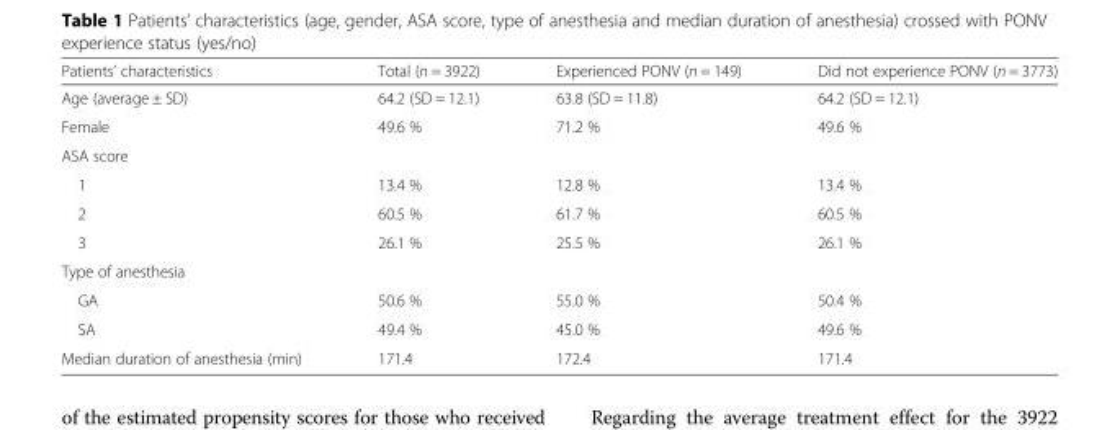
<table><thead><tr><td>Patients’ characteristics</td><td>Total (n = 3922)</td><td>Experienced PONV (n = 149)</td><td>Did not experience PONV (n = 3773)</td></tr></thead><tbody><tr><td>Age (average ± SD)</td><td>64.2 (SD = 12.1)</td><td>63.8 (SD = 11.8)</td><td>64.2 (SD = 12.1)</td></tr><tr><td>Female</td><td>49.6 %</td><td>71.2 %</td><td>49.6 %</td></tr><tr><td colspan="4">ASA score</td></tr><tr><td>1</td><td>13.4 %</td><td>12.8 %</td><td>13.4 %</td></tr><tr><td>2</td><td>60.5 %</td><td>61.7 %</td><td>60.5 %</td></tr><tr><td>3</td><td>26.1 %</td><td>25.5 %</td><td>26.1 %</td></tr><tr><td colspan="4">Type of anesthesia</td></tr><tr><td>GA</td><td>50.6 %</td><td>55.0 %</td><td>50.4 %</td></tr><tr><td>SA</td><td>49.4 %</td><td>45.0 %</td><td>49.6 %</td></tr><tr><td>Median duration of anesthesia (min)</td><td>171.4</td><td>172.4</td><td>171.4</td></tr></tbody></table>